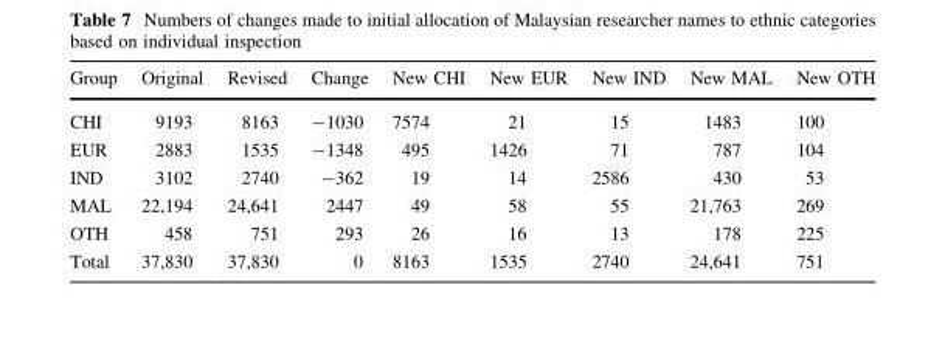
<table><thead><tr><td>Group</td><td>Original</td><td>Revised</td><td>Change</td><td>New CHI</td><td>New EUR</td><td>New IND</td><td>New MAL</td><td>New OTH</td></tr></thead><tbody><tr><td>CHI</td><td>9193</td><td>8163</td><td>-1030</td><td>7574</td><td>21</td><td>15</td><td>1483</td><td>100</td></tr><tr><td>EUR</td><td>2883</td><td>1535</td><td>-1348</td><td>495</td><td>1426</td><td>71</td><td>787</td><td>104</td></tr><tr><td>IND</td><td>3102</td><td>2740</td><td>-362</td><td>19</td><td>14</td><td>2586</td><td>430</td><td>53</td></tr><tr><td>MAL</td><td>22,194</td><td>24,641</td><td>2447</td><td>49</td><td>58</td><td>55</td><td>21,763</td><td>269</td></tr><tr><td>OTH</td><td>458</td><td>751</td><td>293</td><td>26</td><td>16</td><td>13</td><td>178</td><td>225</td></tr><tr><td>Total</td><td>37,830</td><td>37,830</td><td>0</td><td>8163</td><td>1535</td><td>2740</td><td>24,641</td><td>751</td></tr></tbody></table>